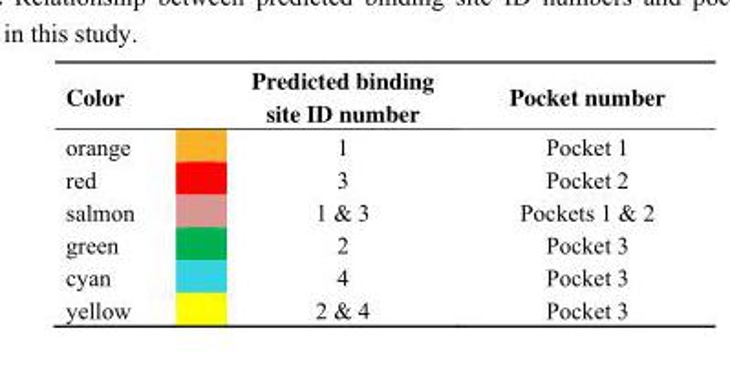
<table><thead><tr><td>Color</td><td>Predicted binding site ID number</td><td>Pocket number</td></tr></thead><tbody><tr><td>orange</td><td>1</td><td>Pocket 1</td></tr><tr><td>red</td><td>3</td><td>Pocket 2</td></tr><tr><td>salmon</td><td>1 &amp; 3</td><td>Pockets 1 &amp; 2</td></tr><tr><td>green</td><td>2</td><td>Pocket 3</td></tr><tr><td>cyan</td><td>4</td><td>Pocket 3</td></tr><tr><td>yellow</td><td>2 &amp; 4</td><td>Pocket 3</td></tr></tbody></table>